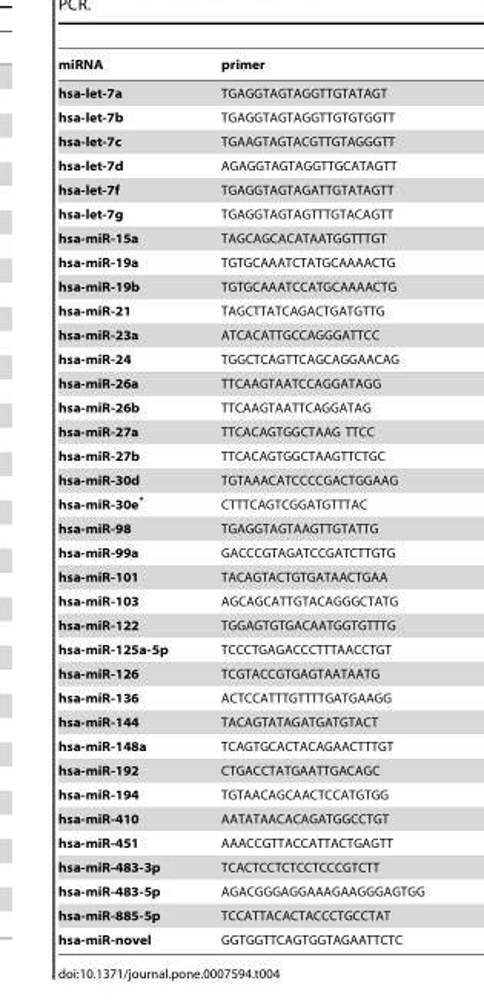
<table><thead><tr><td>miRNA</td><td>primer</td></tr></thead><tbody><tr><td>hsa-let-7a</td><td>TGAGGTAGTAGGTTGTATAGT</td></tr><tr><td>hsa-let-7b</td><td>TGAGGTAGTAGGTTGTGTGGTT</td></tr><tr><td>hsa-let-7c</td><td>TGAAGTAGTACGTTGTAGGGTT</td></tr><tr><td>hsa-let-7d</td><td>AGAGGTAGTAGGTTGCATAGTT</td></tr><tr><td>hsa-let-7f</td><td>TGAGGTAGTAGATTGTATAGTT</td></tr><tr><td>hsa-let-7g</td><td>TGAGGTAGTAGTTTGTACAGTT</td></tr><tr><td>hsa-miR-15a</td><td>TAGCAGCACATAATGGTTTGT</td></tr><tr><td>hsa-miR-19a</td><td>TGTGCAAATCTATGCAAAACTG</td></tr><tr><td>hsa-miR-19b</td><td>TGTGCAAATCCATGCAAAACTG</td></tr><tr><td>hsa-miR-21</td><td>TAGCTTATCAGACTGATGTTG</td></tr><tr><td>hsa-miR-23a</td><td>ATCACATTGCCAGGGATTCC</td></tr><tr><td>hsa-miR-24</td><td>TGGCTCAGTTCAGCAGGAACAG</td></tr><tr><td>hsa-miR-26a</td><td>TTCAAGTAATCCAGGATAGG</td></tr><tr><td>hsa-miR-26b</td><td>TTCAAGTAATTCAGGATAG</td></tr><tr><td>hsa-miR-27a</td><td>TTCACAGTGGCTAAG TTCC</td></tr><tr><td>hsa-miR-27b</td><td>TTCACAGTGGCTAAGTTCTGC</td></tr><tr><td>hsa-miR-30d</td><td>TGTAAACATCCCCGACTGGAAG</td></tr><tr><td>hsa-miR-30e*</td><td>CTTTCAGTCGGATGTTTAC</td></tr><tr><td>hsa-miR-98</td><td>TGAGGTAGTAAGTTGTATTG</td></tr><tr><td>hsa-miR-99a</td><td>GACCCGTAGATCCGATCTTGTG</td></tr><tr><td>hsa-miR-101</td><td>TACAGTACTGTGATAACTGAA</td></tr><tr><td>hsa-miR-103</td><td>AGCAGCATTGTACAGGGCTATG</td></tr><tr><td>hsa-miR-122</td><td>TGGAGTGTGACAATGGTGTTTG</td></tr><tr><td>hsa-miR-125a-5p</td><td>TCCCTGAGACCCTTTAACCTGT</td></tr><tr><td>hsa-miR-126</td><td>TCGTACCGTGAGTAATAATG</td></tr><tr><td>hsa-miR-136</td><td>ACTCCATTTGTTTTGATGAAGG</td></tr><tr><td>hsa-miR-144</td><td>TACAGTATAGATGATGTACT</td></tr><tr><td>hsa-miR-148a</td><td>TCAGTGCACTACAGAACTTTGT</td></tr><tr><td>hsa-miR-192</td><td>CTGACCTATGAATTGACAGC</td></tr><tr><td>hsa-miR-194</td><td>TGTAACAGCAACTCCATGTGG</td></tr><tr><td>hsa-miR-410</td><td>AATATAACACAGATGGCCTGT</td></tr><tr><td>hsa-miR-451</td><td>AAACCGTTACCATTACTGAGTT</td></tr><tr><td>hsa-miR-483-3p</td><td>TCACTCCTCTCCTCCCGTCTT</td></tr><tr><td>hsa-miR-483-5p</td><td>AGACGGGAGGAAAGAAGGGAGTGG</td></tr><tr><td>hsa-miR-885-5p</td><td>TCCATTACACTACCCTGCCTAT</td></tr><tr><td>hsa-miR-novel</td><td>GGTGGTTCAGTGGTAGAATTCTC</td></tr></tbody></table>